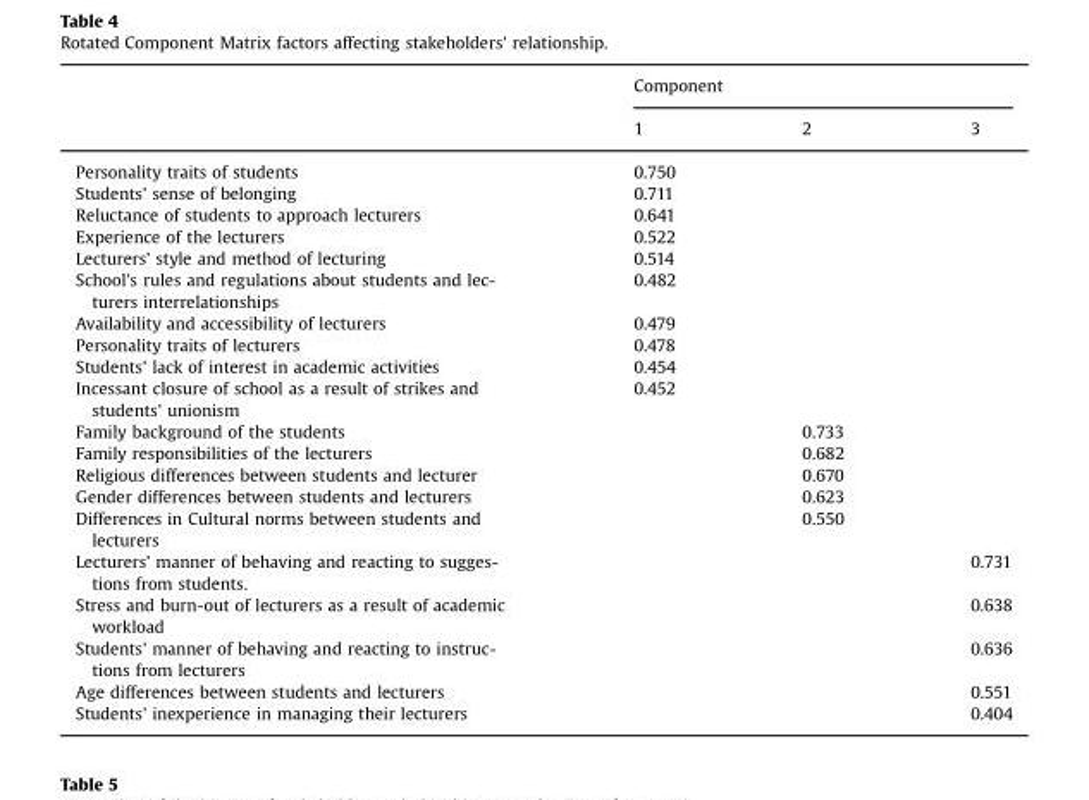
<table><thead><tr><td rowspan="2"></td><td colspan="3">Component</td></tr><tr><td>1</td><td>2</td><td>3</td></tr></thead><tbody><tr><td>Personality traits of students</td><td>0.750</td><td></td><td></td></tr><tr><td>Students’ sense of belonging</td><td>0.711</td><td></td><td></td></tr><tr><td>Reluctance of students to approach lecturers</td><td>0.641</td><td></td><td></td></tr><tr><td>Experience of the lecturers</td><td>0.522</td><td></td><td></td></tr><tr><td>Lecturers’ style and method of lecturing</td><td>0.514</td><td></td><td></td></tr><tr><td>School&#x27;s rules and regulations about students and lec- turers interrelationships</td><td>0.482</td><td></td><td></td></tr><tr><td>Availability and accessibility of lecturers</td><td>0.479</td><td></td><td></td></tr><tr><td>Personality traits of lecturers</td><td>0.478</td><td></td><td></td></tr><tr><td>Students’ lack of interest in academic activities</td><td>0.454</td><td></td><td></td></tr><tr><td>Incessant closure of school as a result of strikes and students’ unionism</td><td>0.452</td><td></td><td></td></tr><tr><td>Family background of the students</td><td></td><td>0.733</td><td></td></tr><tr><td>Family responsibilities of the lecturers</td><td></td><td>0.682</td><td></td></tr><tr><td>Religious differences between students and lecturer</td><td></td><td>0.670</td><td></td></tr><tr><td>Gender differences between students and lecturers</td><td></td><td>0.623</td><td></td></tr><tr><td>Differences in Cultural norms between students and lecturers</td><td></td><td>0.550</td><td></td></tr><tr><td>Lecturers’ manner of behaving and reacting to sugges- tions from students.</td><td></td><td></td><td>0.731</td></tr><tr><td>Stress and burn-out of lecturers as a result of academic workload</td><td></td><td></td><td>0.638</td></tr><tr><td>Students’ manner of behaving and reacting to instruc- tions from lecturers</td><td></td><td></td><td>0.636</td></tr><tr><td>Age differences between students and lecturers</td><td></td><td></td><td>0.551</td></tr><tr><td>Students’ inexperience in managing their lecturers</td><td></td><td></td><td>0.404</td></tr></tbody></table>